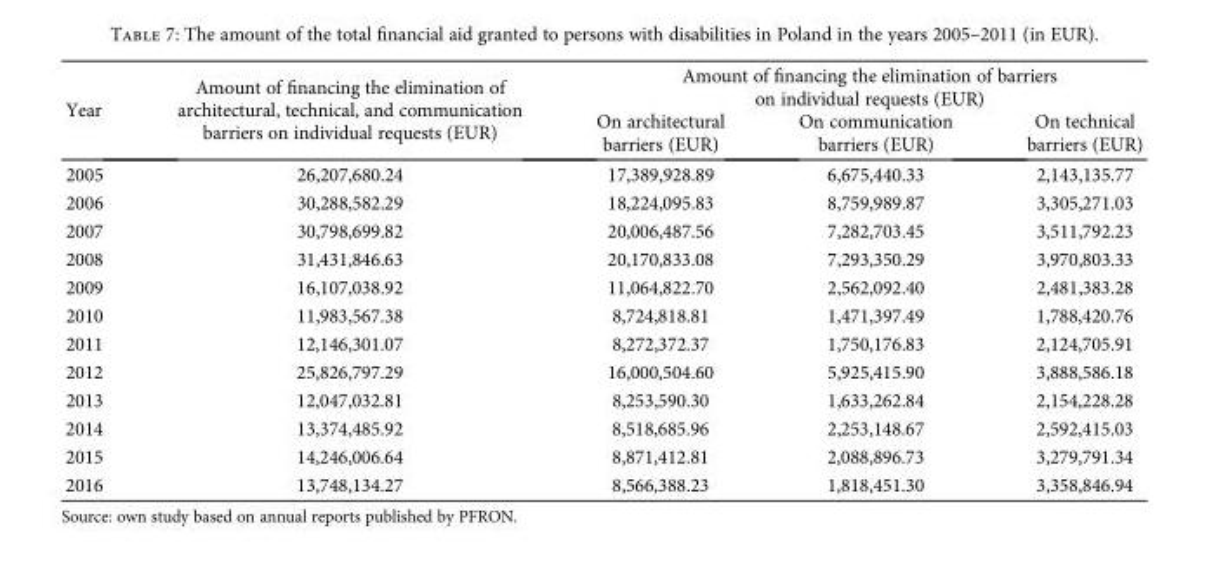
<table><thead><tr><td rowspan="2">Year</td><td rowspan="2">Amount of financing the elimination of architectural, technical, and communication barriers on individual requests (EUR)</td><td colspan="3">Amount of financing the elimination of barriers on individual requests (EUR)</td></tr><tr><td>On architectural barriers (EUR)</td><td>On communication barriers (EUR)</td><td>On technical barriers (EUR)</td></tr></thead><tbody><tr><td>2005</td><td>26,207,680.24</td><td>17,389,928.89</td><td>6,675,440.33</td><td>2,143,135.77</td></tr><tr><td>2006</td><td>30,288,582.29</td><td>18,224,095.83</td><td>8,759,989.87</td><td>3,305,271.03</td></tr><tr><td>2007</td><td>30,798,699.82</td><td>20,006,487.56</td><td>7,282,703.45</td><td>3,511,792.23</td></tr><tr><td>2008</td><td>31,431,846.63</td><td>20,170,833.08</td><td>7,293,350.29</td><td>3,970,803.33</td></tr><tr><td>2009</td><td>16,107,038.92</td><td>11,064,822.70</td><td>2,562,092.40</td><td>2,481,383.28</td></tr><tr><td>2010</td><td>11,983,567.38</td><td>8,724,818.81</td><td>1,471,397.49</td><td>1,788,420.76</td></tr><tr><td>2011</td><td>12,146,301.07</td><td>8,272,372.37</td><td>1,750,176.83</td><td>2,124,705.91</td></tr><tr><td>2012</td><td>25,826,797.29</td><td>16,000,504.60</td><td>5,925,415.90</td><td>3,888,586.18</td></tr><tr><td>2013</td><td>12,047,032.81</td><td>8,253,590.30</td><td>1,633,262.84</td><td>2,154,228.28</td></tr><tr><td>2014</td><td>13,374,485.92</td><td>8,518,685.96</td><td>2,253,148.67</td><td>2,592,415.03</td></tr><tr><td>2015</td><td>14,246,006.64</td><td>8,871,412.81</td><td>2,088,896.73</td><td>3,279,791.34</td></tr><tr><td>2016</td><td>13,748,134.27</td><td>8,566,388.23</td><td>1,818,451.30</td><td>3,358,846.94</td></tr></tbody></table>